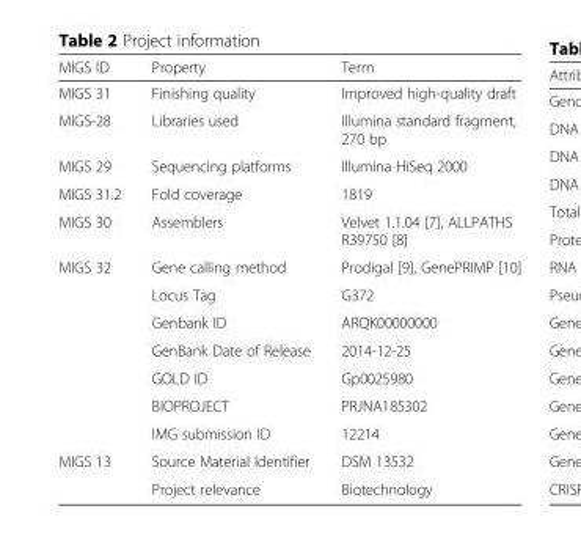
<table><thead><tr><td>MIGS ID</td><td>Property</td><td>Term</td></tr></thead><tbody><tr><td>MIGS 31</td><td>Finishing quality</td><td>Improved high-quality draft</td></tr><tr><td>MIGS-28</td><td>Libraries used</td><td>Illumina standard fragment, 270 bp</td></tr><tr><td>MIGS 29</td><td>Sequencing platforms</td><td>Illumina HiSeq 2000</td></tr><tr><td>MIGS 31.2</td><td>Fold coverage</td><td>1819</td></tr><tr><td>MIGS 30</td><td>Assemblers</td><td>Velvet 1.1.04 [7], ALLPATHS R39750 [8]</td></tr><tr><td rowspan="7">MIGS 32</td><td>Gene calling method</td><td>Prodigal [9], GenePRIMP [10]</td></tr><tr><td>Locus Tag</td><td>G372</td></tr><tr><td>Genbank ID</td><td>ARQK00000000</td></tr><tr><td>GenBank Date of Release</td><td>2014-12-25</td></tr><tr><td>GOLD ID</td><td>Gp0025980</td></tr><tr><td>BIOPROJECT</td><td>PRJNA185302</td></tr><tr><td>IMG submission ID</td><td>12214</td></tr><tr><td rowspan="2">MIGS 13</td><td>Source Material Identifier</td><td>DSM 13532</td></tr><tr><td>Project relevance</td><td>Biotechnology</td></tr></tbody></table>